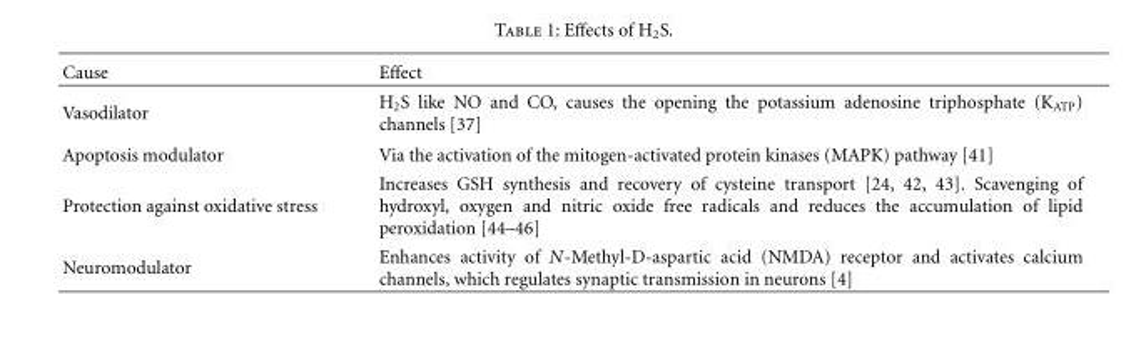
<table><thead><tr><td>Cause</td><td>Effect</td></tr></thead><tbody><tr><td>Vasodilator</td><td>H<sub>2</sub>S like NO and CO, causes the opening the potassium adenosine triphosphate (K<sub>ATP</sub>) channels [37]</td></tr><tr><td>Apoptosis modulator</td><td>Via the activation of the mitogen-activated protein kinases (MAPK) pathway [41]</td></tr><tr><td>Protection against oxidative stress</td><td>Increases GSH synthesis and recovery of cysteine transport [24, 42, 43]. Scavenging of hydroxyl, oxygen and nitric oxide free radicals and reduces the accumulation of lipid peroxidation [44–46]</td></tr><tr><td>Neuromodulator</td><td>Enhances activity of N-Methyl-D-aspartic acid (NMDA) receptor and activates calcium channels, which regulates synaptic transmission in neurons [4]</td></tr></tbody></table>